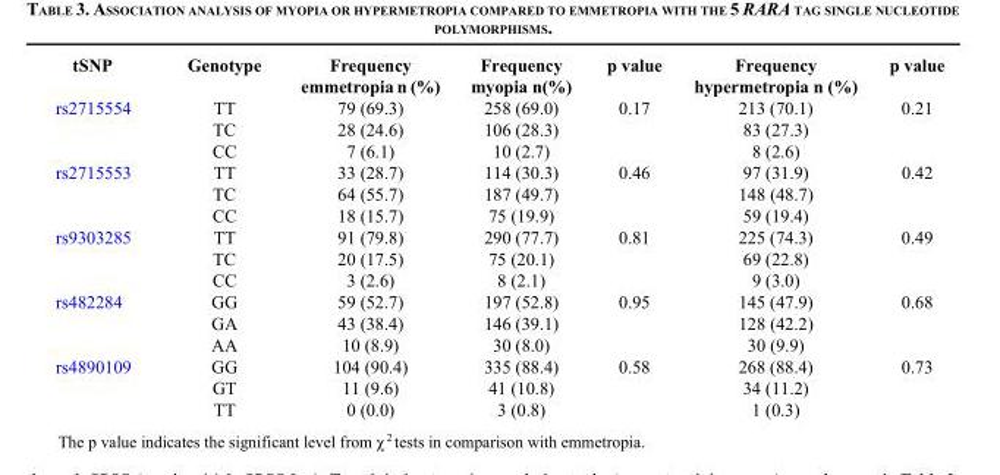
<table><thead><tr><td>tSNP</td><td>Genotype</td><td>Frequency emmetropia n (%)</td><td>Frequency myopia n(%)</td><td>p value</td><td>Frequency hypermetropia n (%)</td><td>p value</td></tr></thead><tbody><tr><td rowspan="3">rs2715554</td><td>TT</td><td>79 (69.3)</td><td>258 (69.0)</td><td>0.17</td><td>213 (70.1)</td><td>0.21</td></tr><tr><td>TC</td><td>28 (24.6)</td><td>106 (28.3)</td><td></td><td>83 (27.3)</td><td></td></tr><tr><td>CC</td><td>7 (6.1)</td><td>10 (2.7)</td><td></td><td>8 (2.6)</td><td></td></tr><tr><td rowspan="3">rs2715553</td><td>TT</td><td>33 (28.7)</td><td>114 (30.3)</td><td>0.46</td><td>97 (31.9)</td><td>0.42</td></tr><tr><td>TC</td><td>64 (55.7)</td><td>187 (49.7)</td><td></td><td>148 (48.7)</td><td></td></tr><tr><td>CC</td><td>18 (15.7)</td><td>75 (19.9)</td><td></td><td>59 (19.4)</td><td></td></tr><tr><td rowspan="3">rs9303285</td><td>TT</td><td>91 (79.8)</td><td>290 (77.7)</td><td>0.81</td><td>225 (74.3)</td><td>0.49</td></tr><tr><td>TC</td><td>20 (17.5)</td><td>75 (20.1)</td><td></td><td>69 (22.8)</td><td></td></tr><tr><td>CC</td><td>3 (2.6)</td><td>8 (2.1)</td><td></td><td>9 (3.0)</td><td></td></tr><tr><td rowspan="3">rs482284</td><td>GG</td><td>59 (52.7)</td><td>197 (52.8)</td><td>0.95</td><td>145 (47.9)</td><td>0.68</td></tr><tr><td>GA</td><td>43 (38.4)</td><td>146 (39.1)</td><td></td><td>128 (42.2)</td><td></td></tr><tr><td>AA</td><td>10 (8.9)</td><td>30 (8.0)</td><td></td><td>30 (9.9)</td><td></td></tr><tr><td rowspan="3">rs4890109</td><td>GG</td><td>104 (90.4)</td><td>335 (88.4)</td><td>0.58</td><td>268 (88.4)</td><td>0.73</td></tr><tr><td>GT</td><td>11 (9.6)</td><td>41 (10.8)</td><td></td><td>34 (11.2)</td><td></td></tr><tr><td>TT</td><td>0 (0.0)</td><td>3 (0.8)</td><td></td><td>1 (0.3)</td><td></td></tr></tbody></table>